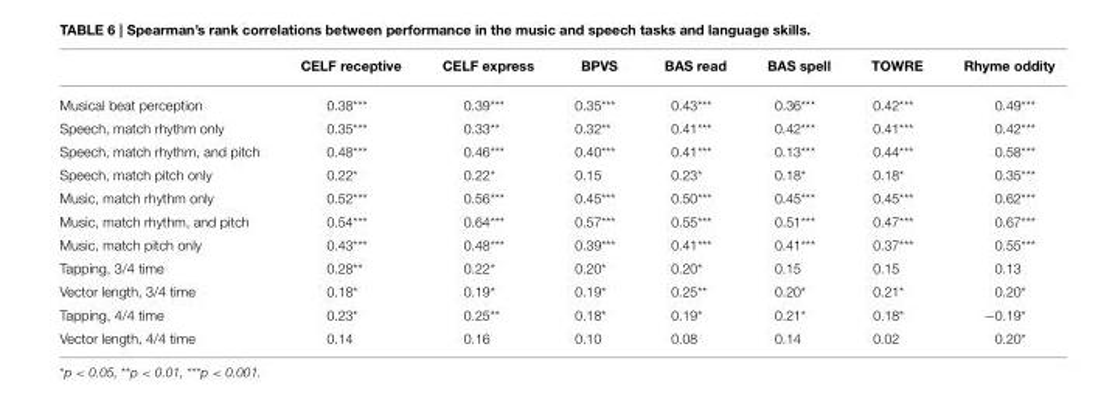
<table><thead><tr><td></td><td>CELF receptive</td><td>CELF express</td><td>BPVS</td><td>BAS read</td><td>BAS spell</td><td>TOWRE</td><td>Rhyme oddity</td></tr></thead><tbody><tr><td>Musical beat perception</td><td>0.38***</td><td>0.39***</td><td>0.35***</td><td>0.43***</td><td>0.36***</td><td>0.42***</td><td>0.49***</td></tr><tr><td>Speech, match rhythm only</td><td>0.35***</td><td>0.33**</td><td>0.32**</td><td>0.41***</td><td>0.42***</td><td>0.41***</td><td>0.42***</td></tr><tr><td>Speech, match rhythm, and pitch</td><td>0.48***</td><td>0.46***</td><td>0.40***</td><td>0.41***</td><td>0.13***</td><td>0.44***</td><td>0.58***</td></tr><tr><td>Speech, match pitch only</td><td>0.22*</td><td>0.22*</td><td>0.15</td><td>0.23*</td><td>0.18*</td><td>0.18*</td><td>0.35***</td></tr><tr><td>Music, match rhythm only</td><td>0.52***</td><td>0.56***</td><td>0.45***</td><td>0.50***</td><td>0.45***</td><td>0.45***</td><td>0.62***</td></tr><tr><td>Music, match rhythm, and pitch</td><td>0.54***</td><td>0.64***</td><td>0.57***</td><td>0.55***</td><td>0.51***</td><td>0.47***</td><td>0.67***</td></tr><tr><td>Music, match pitch only</td><td>0.43***</td><td>0.48***</td><td>0.39***</td><td>0.41***</td><td>0.41***</td><td>0.37***</td><td>0.55***</td></tr><tr><td>Tapping, 3/4 time</td><td>0.28**</td><td>0.22*</td><td>0.20*</td><td>0.20*</td><td>0.15</td><td>0.15</td><td>0.13</td></tr><tr><td>Vector length, 3/4 time</td><td>0.18*</td><td>0.19*</td><td>0.19*</td><td>0.25**</td><td>0.20*</td><td>0.21*</td><td>0.20*</td></tr><tr><td>Tapping, 4/4 time</td><td>0.23*</td><td>0.25**</td><td>0.18*</td><td>0.19*</td><td>0.21*</td><td>0.18*</td><td>−0.19*</td></tr><tr><td>Vector length, 4/4 time</td><td>0.14</td><td>0.16</td><td>0.10</td><td>0.08</td><td>0.14</td><td>0.02</td><td>0.20*</td></tr></tbody></table>